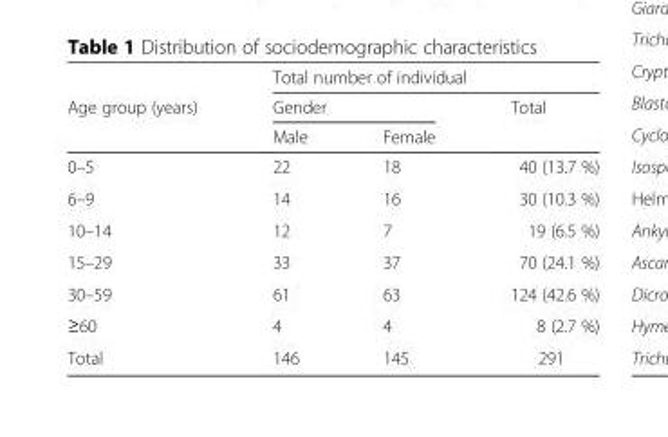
<table><thead><tr><td rowspan="3">Age group (years)</td><td colspan="3">Total number of individual</td></tr><tr><td colspan="2">Gender</td><td rowspan="2">Total</td></tr><tr><td>Male</td><td>Female</td></tr></thead><tbody><tr><td>0–5</td><td>22</td><td>18</td><td>40 (13.7 %)</td></tr><tr><td>6–9</td><td>14</td><td>16</td><td>30 (10.3 %)</td></tr><tr><td>10–14</td><td>12</td><td>7</td><td>19 (6.5 %)</td></tr><tr><td>15–29</td><td>33</td><td>37</td><td>70 (24.1 %)</td></tr><tr><td>30–59</td><td>61</td><td>63</td><td>124 (42.6 %)</td></tr><tr><td>≥60</td><td>4</td><td>4</td><td>8 (2.7 %)</td></tr><tr><td>Total</td><td>146</td><td>145</td><td>291</td></tr></tbody></table>